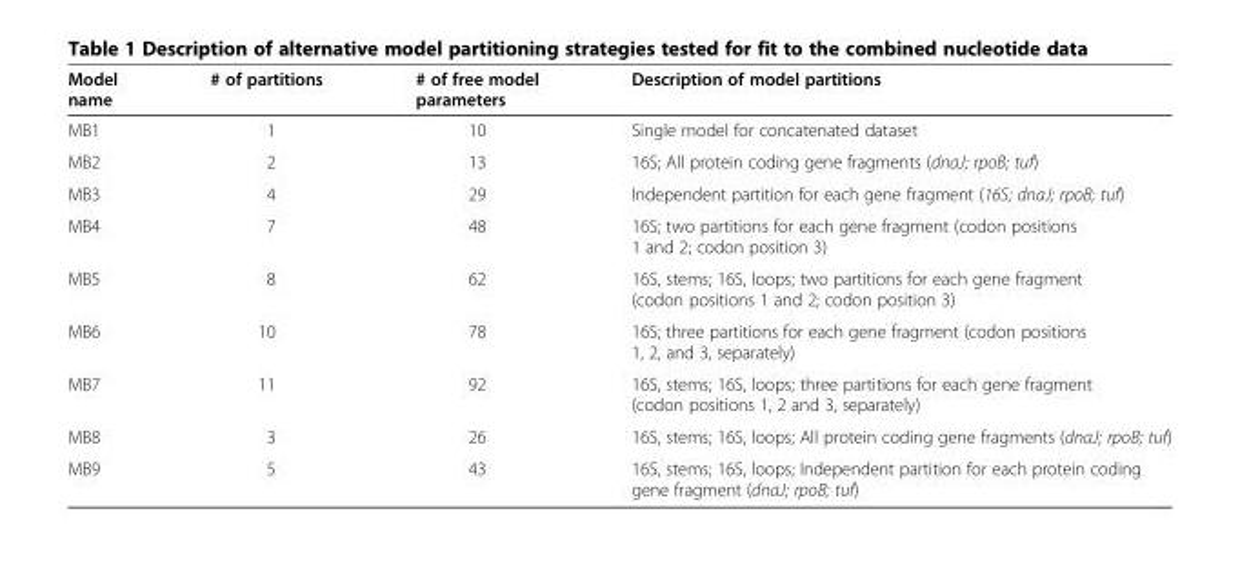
<table><thead><tr><td>Model name</td><td># of partitions</td><td># of free model parameters</td><td>Description of model partitions</td></tr></thead><tbody><tr><td>MB1</td><td>1</td><td>10</td><td>Single model for concatenated dataset</td></tr><tr><td>MB2</td><td>2</td><td>13</td><td>16S; All protein coding gene fragments (dnaJ; rpoB; tuf)</td></tr><tr><td>MB3</td><td>4</td><td>29</td><td>Independent partition for each gene fragment (16S; dnaJ; rpoB; tuf)</td></tr><tr><td>MB4</td><td>7</td><td>48</td><td>16S; two partitions for each gene fragment (codon positions 1 and 2; codon position 3)</td></tr><tr><td>MB5</td><td>8</td><td>62</td><td>16S, stems; 16S, loops; two partitions for each gene fragment (codon positions 1 and 2; codon position 3)</td></tr><tr><td>MB6</td><td>10</td><td>78</td><td>16S; three partitions for each gene fragment (codon positions 1, 2, and 3, separately)</td></tr><tr><td>MB7</td><td>11</td><td>92</td><td>16S, stems; 16S, loops; three partitions for each gene fragment (codon positions 1, 2 and 3, separately)</td></tr><tr><td>MB8</td><td>3</td><td>26</td><td>16S, stems; 16S, loops; All protein coding gene fragments (dnaJ; rpoB; tuf)</td></tr><tr><td>MB9</td><td>5</td><td>43</td><td>16S, stems; 16S, loops; Independent partition for each protein coding gene fragment (dnaJ; rpoB; tuf)</td></tr></tbody></table>